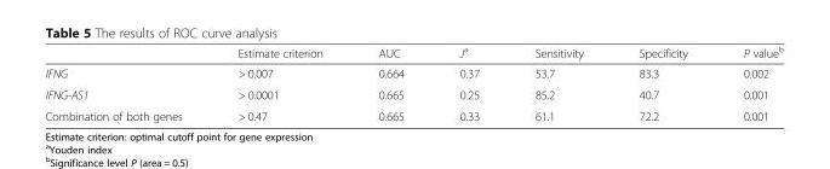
<table><thead><tr><td></td><td>Estimate criterion</td><td>AUC</td><td>J<sup>a</sup></td><td>Sensitivity</td><td>Specificity</td><td>P value<sup>b</sup></td></tr></thead><tbody><tr><td>IFNG</td><td>&gt; 0.007</td><td>0.664</td><td>0.37</td><td>53.7</td><td>83.3</td><td>0.002</td></tr><tr><td>IFNG-AS1</td><td>&gt; 0.0001</td><td>0.665</td><td>0.25</td><td>85.2</td><td>40.7</td><td>0.001</td></tr><tr><td>Combination of both genes</td><td>&gt; 0.47</td><td>0.665</td><td>0.33</td><td>61.1</td><td>72.2</td><td>0.001</td></tr></tbody></table>